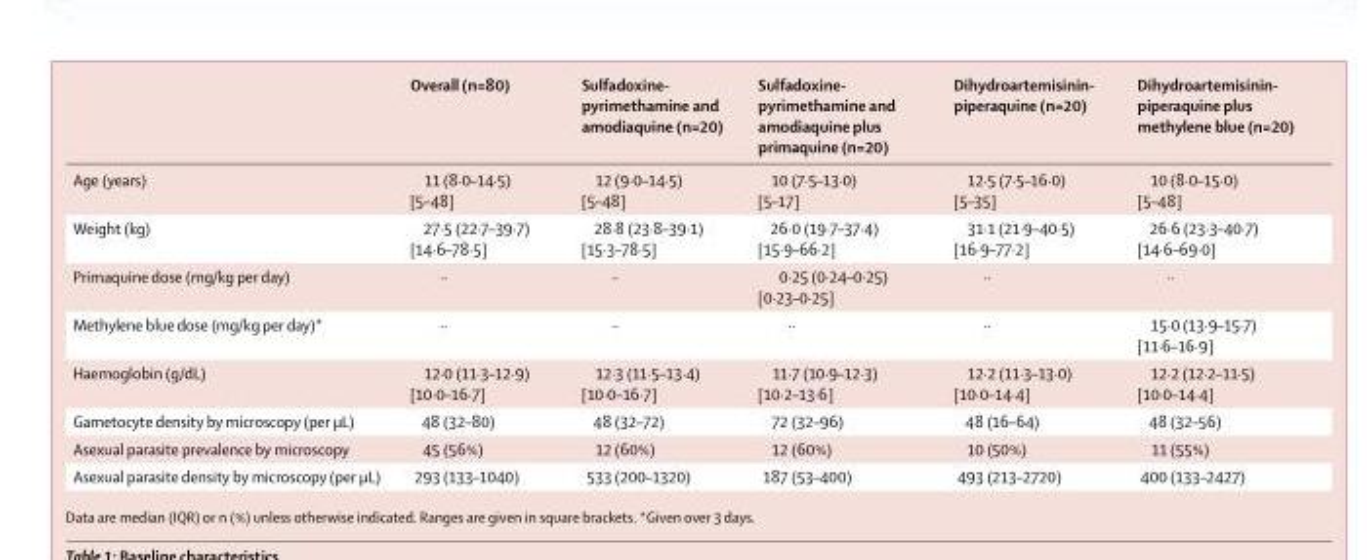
<table><thead><tr><td></td><td>Overall (n=80)</td><td>Sulfadoxine- pyrimethamine and amodiaquine (n=20)</td><td>Sulfadoxine- pyrimethamine and amodiaquine plus primaquine (n=20)</td><td>Dihydroartemisinin- piperaquine (n=20)</td><td>Dihydroartemisinin- piperaquine plus methylene blue (n=20)</td></tr></thead><tbody><tr><td>Age (years)</td><td>11 (8·0–14·5) [5–48]</td><td>12 (9·0–14·5) [5–48]</td><td>10 (7·5–13·0) [5–17]</td><td>12·5 (7·5–16·0) [5–35]</td><td>10 (8·0–15·0) [5–48]</td></tr><tr><td>Weight (kg)</td><td>27·5 (22·7–39·7) [14·6–78·5]</td><td>28·8 (23·8–39·1) [15·3–78·5]</td><td>26·0 (19·7–37·4) [15·9–66·2]</td><td>31·1 (21·9–40·5) [16·9–77·2]</td><td>26·6 (23·3–40·7) [14·6–69·0]</td></tr><tr><td>Primaquine dose (mg/kg per day)</td><td>··</td><td>··</td><td>0·25 (0·24–0·25) [0·23–0·25]</td><td>··</td><td>··</td></tr><tr><td>Methylene blue dose (mg/kg per day)*</td><td>··</td><td>··</td><td>··</td><td>··</td><td>15·0 (13·9–15·7) [11·6–16·9]</td></tr><tr><td>Haemoglobin (g/dL)</td><td>12·0 (11·3–12·9) [10·0–16·7]</td><td>12·3 (11·5–13·4) [10·0–16·7]</td><td>11·7 (10·9–12·3) [10·2–13·6]</td><td>12·2 (11·3–13·0) [10·0–14·4]</td><td>12·2 (12·2–11·5) [10·0–14·4]</td></tr><tr><td>Gametocyte density by microscopy (per μL)</td><td>48 (32–80)</td><td>48 (32–72)</td><td>72 (32–96)</td><td>48 (16–64)</td><td>48 (32–56)</td></tr><tr><td>Asexual parasite prevalence by microscopy</td><td>45 (56%)</td><td>12 (60%)</td><td>12 (60%)</td><td>10 (50%)</td><td>11 (55%)</td></tr><tr><td>Asexual parasite density by microscopy (per μL)</td><td>293 (133–1040)</td><td>533 (200–1320)</td><td>187 (53–400)</td><td>493 (213–2720)</td><td>400 (133–2427)</td></tr></tbody></table>